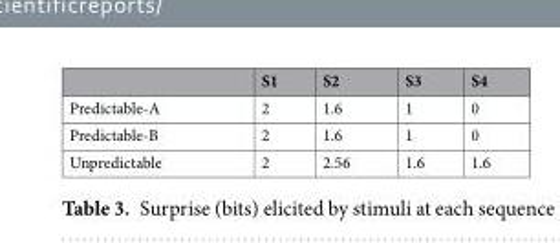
<table><thead><tr><td></td><td>S1</td><td>S2</td><td>S3</td><td>S4</td></tr></thead><tbody><tr><td>Predictable-A</td><td>2</td><td>1.6</td><td>1</td><td>0</td></tr><tr><td>Predictable-B</td><td>2</td><td>1.6</td><td>1</td><td>0</td></tr><tr><td>Unpredictable</td><td>2</td><td>2.56</td><td>1.6</td><td>1.6</td></tr></tbody></table>